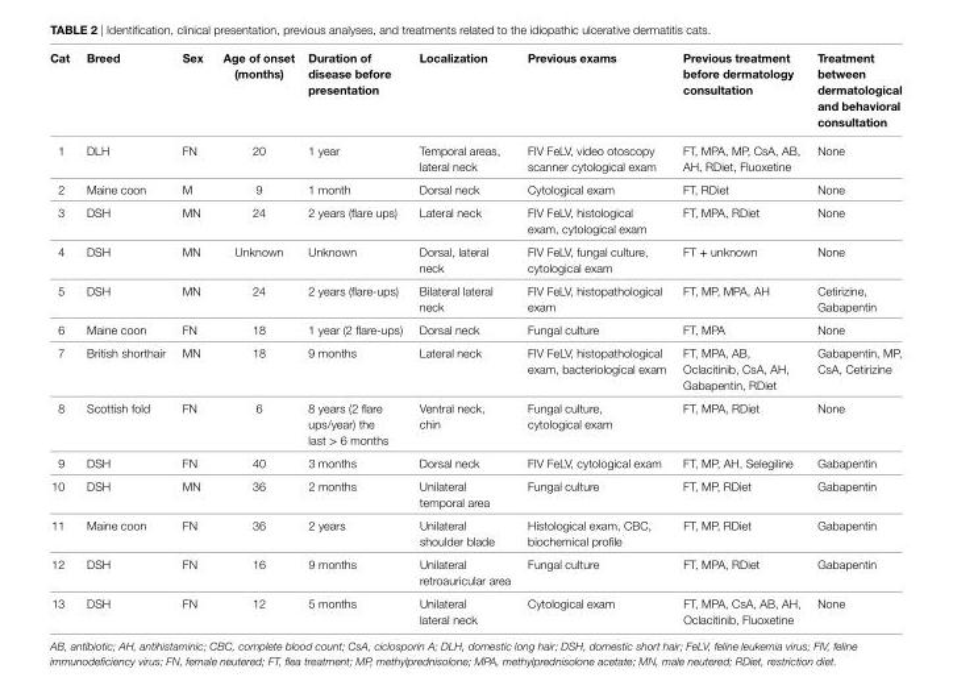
<table><thead><tr><td>cat</td><td>Breed</td><td>sex</td><td>age of onset (months)</td><td>Duration of disease before presentation</td><td>localization</td><td>Previous exams</td><td>Previous treatment before dermatology consultation</td><td>Treatment between dermatological and behavioral consultation</td></tr></thead><tbody><tr><td>1</td><td>DLH</td><td>FN</td><td>20</td><td>1 year</td><td>Temporal areas, lateral neck</td><td>FIV FeLV, video otoscopy scanner cytological exam</td><td>FT, MPA, MP, CsA, AB, AH, RDiet, Fluoxetine</td><td>None</td></tr><tr><td>2</td><td>Maine coon</td><td>M</td><td>9</td><td>1 month</td><td>Dorsal neck</td><td>Cytological exam</td><td>FT, RDiet</td><td>None</td></tr><tr><td>3</td><td>DSH</td><td>MN</td><td>24</td><td>2 years (flare ups)</td><td>Lateral neck</td><td>FIV FeLV, histological exam, cytological exam</td><td>FT, MPA, RDiet</td><td>None</td></tr><tr><td>4</td><td>DSH</td><td>MN</td><td>Unknown</td><td>Unknown</td><td>Dorsal, lateral neck</td><td>FIV FeLV, fungal culture, cytological exam</td><td>FT + unknown</td><td>None</td></tr><tr><td>5</td><td>DSH</td><td>MN</td><td>24</td><td>2 years (flare-ups)</td><td>Bilateral lateral neck</td><td>FIV FeLV, histopathological exam</td><td>FT, MP, MPA, AH</td><td>Cetirizine, Gabapentin</td></tr><tr><td>6</td><td>Maine coon</td><td>FN</td><td>18</td><td>1 year (2 flare-ups)</td><td>Dorsal neck</td><td>Fungal culture</td><td>FT, MPA</td><td>None</td></tr><tr><td>7</td><td>British shorthair</td><td>MN</td><td>18</td><td>9 months</td><td>Lateral neck</td><td>FIV FeLV, histopathological exam, bacteriological exam</td><td>FT, MPA, AB, Oclacitinib, CsA, AH, Gabapentin, RDiet</td><td>Gabapentin, MP, CsA, Cetirizine</td></tr><tr><td>8</td><td>Scottish fold</td><td>FN</td><td>6</td><td>8 years (2 flare ups/year) the last &gt; 6 months</td><td>Ventral neck, chin</td><td>Fungal culture, cytological exam</td><td>FT, MPA, RDiet</td><td>None</td></tr><tr><td>9</td><td>DSH</td><td>FN</td><td>40</td><td>3 months</td><td>Dorsal neck</td><td>FIV FeLV, cytological exam</td><td>FT, MP, AH, Selegiline</td><td>Gabapentin</td></tr><tr><td>10</td><td>DSH</td><td>MN</td><td>36</td><td>2 months</td><td>Unilateral temporal area</td><td>Fungal culture</td><td>FT, MP, RDiet</td><td>Gabapentin</td></tr><tr><td>11</td><td>Maine coon</td><td>FN</td><td>36</td><td>2 years</td><td>Unilateral shoulder blade</td><td>Histological exam, CBC, biochemical profile</td><td>FT, MP, RDiet</td><td>Gabapentin</td></tr><tr><td>12</td><td>DSH</td><td>FN</td><td>16</td><td>9 months</td><td>Unilateral retroauricular area</td><td>Fungal culture</td><td>FT, MPA, RDiet</td><td>Gabapentin</td></tr><tr><td>13</td><td>DSH</td><td>FN</td><td>12</td><td>5 months</td><td>Unilateral lateral neck</td><td>Cytological exam</td><td>FT, MPA, CsA, AB, AH, Oclacitinib, Fluoxetine</td><td>None</td></tr></tbody></table>